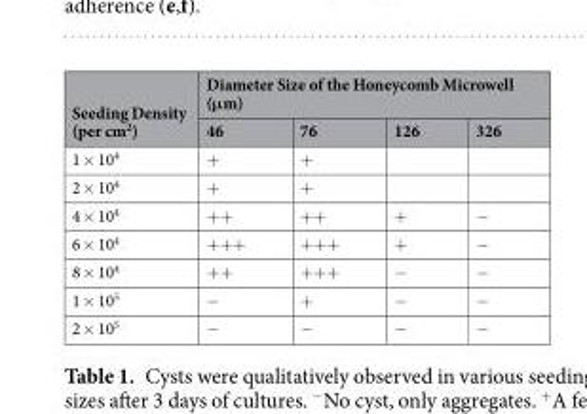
<table><thead><tr><td rowspan="2">Seeding Density (per cm<sup>2</sup>)</td><td colspan="4">Diameter Size of the Honeycomb Microwell (μm)</td></tr><tr><td>46</td><td>76</td><td>126</td><td>326</td></tr></thead><tbody><tr><td>1 × 10<sup>4</sup></td><td>+</td><td>+</td><td></td><td></td></tr><tr><td>2 × 10<sup>4</sup></td><td>+</td><td>+</td><td></td><td></td></tr><tr><td>4 × 10<sup>4</sup></td><td>++</td><td>++</td><td>+</td><td>−</td></tr><tr><td>6 × 10<sup>4</sup></td><td>+++</td><td>+++</td><td>+</td><td>−</td></tr><tr><td>8 × 10<sup>4</sup></td><td>++</td><td>+++</td><td>−</td><td>−</td></tr><tr><td>1 × 10<sup>5</sup></td><td>−</td><td>+</td><td>−</td><td>−</td></tr><tr><td>2 × 10<sup>5</sup></td><td>−</td><td>−</td><td>−</td><td>−</td></tr></tbody></table>